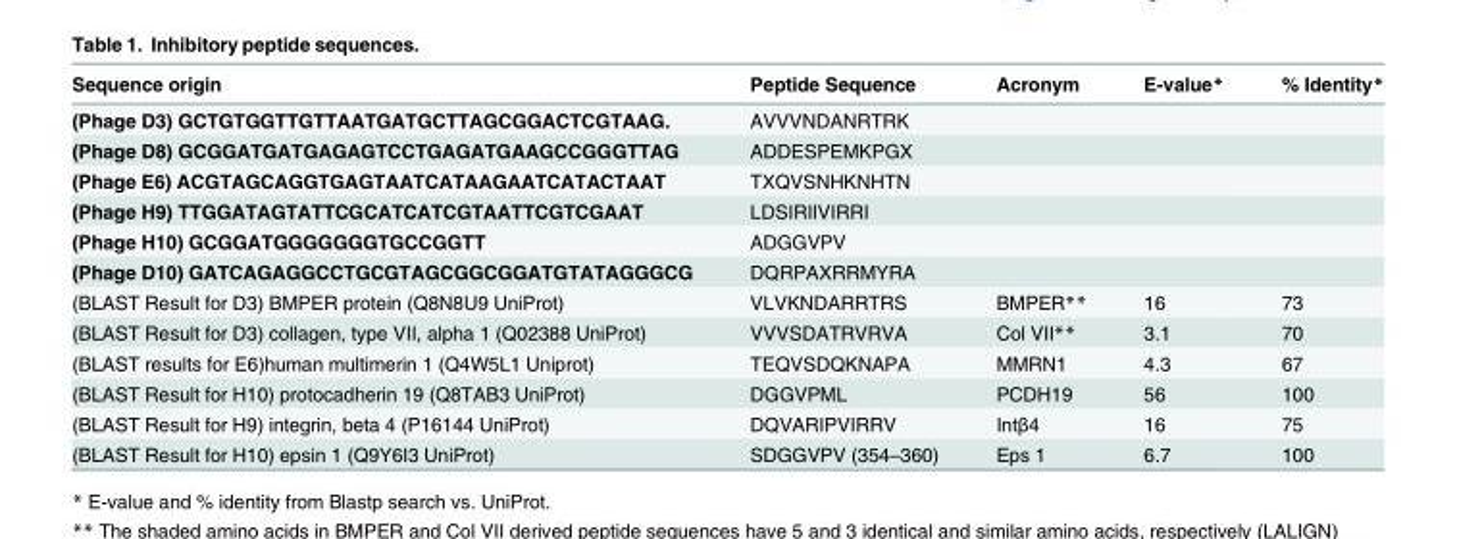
<table><thead><tr><td>Sequence origin</td><td>Peptide Sequence</td><td>Acronym</td><td>E-value*</td><td>% Identity*</td></tr></thead><tbody><tr><td>(Phage D3) GCTGTGGTTGTTAATGATGCTTAGCGGACTCGTAAG.</td><td>AVVVNDANRTRK</td><td></td><td></td><td></td></tr><tr><td>(Phage D8) GCGGATGATGAGAGTCCTGAGATGAAGCCGGGTTAG</td><td>ADDESPEMKPGX</td><td></td><td></td><td></td></tr><tr><td>(Phage E6) ACGTAGCAGGTGAGTAATCATAAGAATCATACTAAT</td><td>TXQVSNHKNHTN</td><td></td><td></td><td></td></tr><tr><td>(Phage H9) TTGGATAGTATTCGCATCATCGTAATTCGTCGAAT</td><td>LDSIRIIVIRRI</td><td></td><td></td><td></td></tr><tr><td>(Phage H10) GCGGATGGGGGGGTGCCGGTT</td><td>ADGGVPV</td><td></td><td></td><td></td></tr><tr><td>(Phage D10) GATCAGAGGCCTGCGTAGCGGCGGATGTATAGGGCG</td><td>DQRPAXRRMYRA</td><td></td><td></td><td></td></tr><tr><td>(BLAST Result for D3) BMPER protein (Q8N8U9 UniProt)</td><td>VLVKNDARRTRS</td><td>BMPER**</td><td>16</td><td>73</td></tr><tr><td>(BLAST Result for D3) collagen, type VII, alpha 1 (Q02388 UniProt)</td><td>VVVSDATRVRVA</td><td>Col VII**</td><td>3.1</td><td>70</td></tr><tr><td>(BLAST results for E6)human multimerin 1 (Q4W5L1 Uniprot)</td><td>TEQVSDQKNAPA</td><td>MMRN1</td><td>4.3</td><td>67</td></tr><tr><td>(BLAST Result for H10) protocadherin 19 (Q8TAB3 UniProt)</td><td>DGGVPML</td><td>PCDH19</td><td>56</td><td>100</td></tr><tr><td>(BLAST Result for H9) integrin, beta 4 (P16144 UniProt)</td><td>DQVARIPVIRRV</td><td>Intβ4</td><td>16</td><td>75</td></tr><tr><td>(BLAST Result for H10) epsin 1 (Q9Y6I3 UniProt)</td><td>SDGGVPV (354–360)</td><td>Eps 1</td><td>6.7</td><td>100</td></tr></tbody></table>